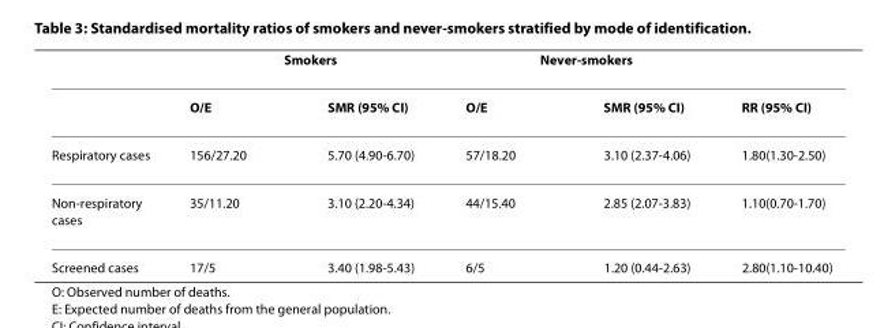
<table><thead><tr><td rowspan="2"></td><td colspan="2">Smokers</td><td colspan="2">Never-smokers</td><td rowspan="2">RR (95% CI)</td></tr><tr><td>O/E</td><td>SMR (95% CI)</td><td>O/E</td><td>SMR (95% CI)</td></tr></thead><tbody><tr><td>Respiratory cases</td><td>156/27.20</td><td>5.70 (4.90-6.70)</td><td>57/18.20</td><td>3.10 (2.37-4.06)</td><td>1.80(1.30-2.50)</td></tr><tr><td>Non-respiratory cases</td><td>35/11.20</td><td>3.10 (2.20-4.34)</td><td>44/15.40</td><td>2.85 (2.07-3.83)</td><td>1.10(0.70-1.70)</td></tr><tr><td>Screened cases</td><td>17/5</td><td>3.40 (1.98-5.43)</td><td>6/5</td><td>1.20 (0.44-2.63)</td><td>2.80(1.10-10.40)</td></tr></tbody></table>